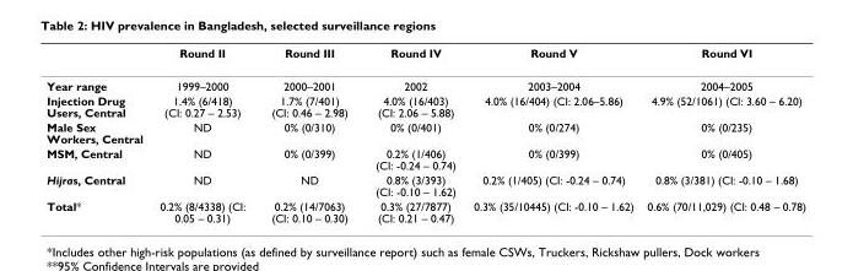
<table><thead><tr><td></td><td>Round II</td><td>Round III</td><td>Round IV</td><td>Round V</td><td>Round VI</td></tr></thead><tbody><tr><td>Year range</td><td>1999–2000</td><td>2000–2001</td><td>2002</td><td>2003–2004</td><td>2004–2005</td></tr><tr><td>Injection Drug Users, Central</td><td>1.4% (6/418) (CI: 0.27 – 2.53)</td><td>1.7% (7/401) (CI: 0.46 – 2.98)</td><td>4.0% (16/403) (CI: 2.06 – 5.88)</td><td>4.0% (16/404) (CI: 2.06–5.86)</td><td>4.9% (52/1061) (CI: 3.60 – 6.20)</td></tr><tr><td>Male Sex Workers, Central</td><td>ND</td><td>0% (0/310)</td><td>0% (0/401)</td><td>0% (0/274)</td><td>0% (0/235)</td></tr><tr><td>MSM, Central</td><td>ND</td><td>0% (0/399)</td><td>0.2% (1/406) (CI: -0.24 – 0.74)</td><td>0% (0/399)</td><td>0% (0/405)</td></tr><tr><td>Hijras, Central</td><td>ND</td><td>ND</td><td>0.8% (3/393) (CI: -0.10 – 1.62)</td><td>0.2% (1/405) (CI: -0.24 – 0.74)</td><td>0.8% (3/381) (CI: -0.10 – 1.68)</td></tr><tr><td>Total*</td><td>0.2% (8/4338) (CI: 0.05 – 0.31)</td><td>0.2% (14/7063) (CI: 0.10 – 0.30)</td><td>0.3% (27/7877) (CI: 0.21 – 0.47)</td><td>0.3% (35/10445) (CI: -0.10 – 1.62)</td><td>0.6% (70/11,029) (CI: 0.48 – 0.78)</td></tr></tbody></table>